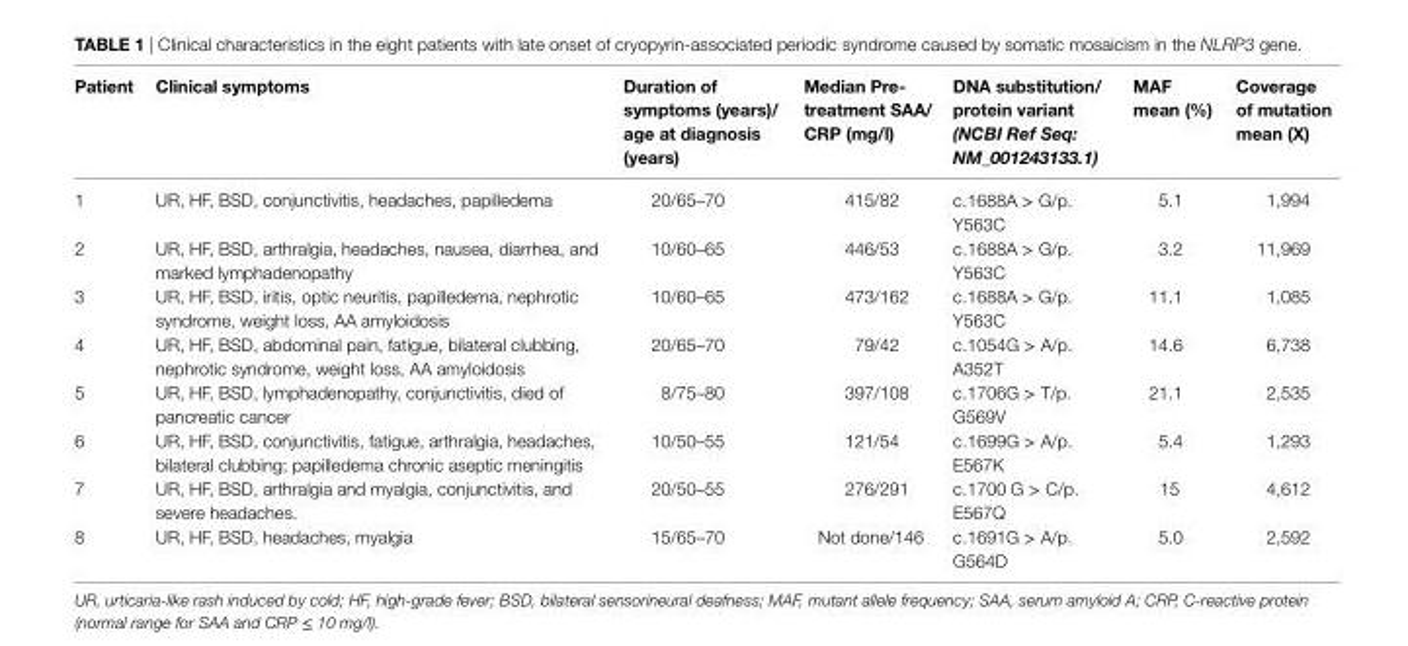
<table><thead><tr><td>Patient</td><td>clinical symptoms</td><td>Duration of symptoms (years)/ age at diagnosis (years)</td><td>Median Pre- treatment saa/ crP (mg/l)</td><td>Dna substitution/ protein variant (NCBI Ref Seq: NM_001243133.1)</td><td>MaF mean (%)</td><td>coverage of mutation mean (X)</td></tr></thead><tbody><tr><td>1</td><td>UR, HF, BSD, conjunctivitis, headaches, papilledema</td><td>20/65–70</td><td>415/82</td><td>c.1688A &gt; G/p. Y563C</td><td>5.1</td><td>1,994</td></tr><tr><td>2</td><td>UR, HF, BSD, arthralgia, headaches, nausea, diarrhea, and marked lymphadenopathy</td><td>10/60–65</td><td>446/53</td><td>c.1688A &gt; G/p. Y563C</td><td>3.2</td><td>11,969</td></tr><tr><td>3</td><td>UR, HF, BSD, iritis, optic neuritis, papilledema, nephrotic syndrome, weight loss, AA amyloidosis</td><td>10/60–65</td><td>473/162</td><td>c.1688A &gt; G/p. Y563C</td><td>11.1</td><td>1,085</td></tr><tr><td>4</td><td>UR, HF, BSD, abdominal pain, fatigue, bilateral clubbing, nephrotic syndrome, weight loss, AA amyloidosis</td><td>20/65–70</td><td>79/42</td><td>c.1054G &gt; A/p. A352T</td><td>14.6</td><td>6,738</td></tr><tr><td>5</td><td>UR, HF, BSD, lymphadenopathy, conjunctivitis, died of pancreatic cancer</td><td>8/75–80</td><td>397/108</td><td>c.1706G &gt; T/p. G569V</td><td>21.1</td><td>2,535</td></tr><tr><td>6</td><td>UR, HF, BSD, conjunctivitis, fatigue, arthralgia, headaches, bilateral clubbing; papilledema chronic aseptic meningitis</td><td>10/50–55</td><td>121/54</td><td>c.1699G &gt; A/p. E567K</td><td>5.4</td><td>1,293</td></tr><tr><td>7</td><td>UR, HF, BSD, arthralgia and myalgia, conjunctivitis, and severe headaches.</td><td>20/50–55</td><td>276/291</td><td>c.1700 G &gt; C/p. E567Q</td><td>15</td><td>4,612</td></tr><tr><td>8</td><td>UR, HF, BSD, headaches, myalgia</td><td>15/65–70</td><td>Not done/146</td><td>c.1691G &gt; A/p. G564D</td><td>5.0</td><td>2,592</td></tr></tbody></table>